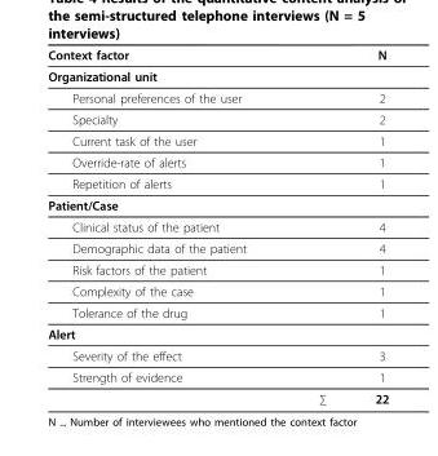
<table><thead><tr><td>Context factor</td><td>N</td></tr></thead><tbody><tr><td colspan="2">Organizational unit</td></tr><tr><td>Personal preferences of the user</td><td>2</td></tr><tr><td>Specialty</td><td>2</td></tr><tr><td>Current task of the user</td><td>1</td></tr><tr><td>Override-rate of alerts</td><td>1</td></tr><tr><td>Repetition of alerts</td><td>1</td></tr><tr><td colspan="2">Patient/Case</td></tr><tr><td>Clinical status of the patient</td><td>4</td></tr><tr><td>Demographic data of the patient</td><td>4</td></tr><tr><td>Risk factors of the patient</td><td>1</td></tr><tr><td>Complexity of the case</td><td>1</td></tr><tr><td>Tolerance of the drug</td><td>1</td></tr><tr><td colspan="2">Alert</td></tr><tr><td>Severity of the effect</td><td>3</td></tr><tr><td>Strength of evidence</td><td>1</td></tr><tr><td>∑</td><td>22</td></tr></tbody></table>